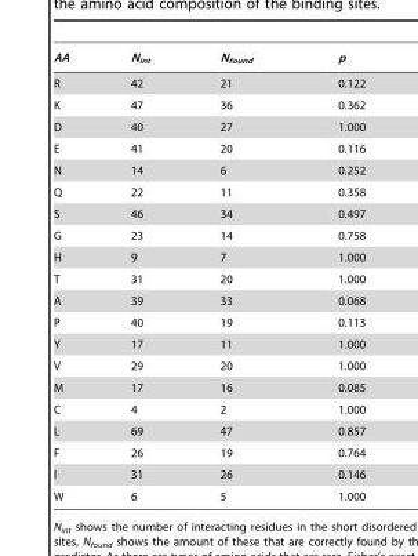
<table><thead><tr><td>AA</td><td>N<sub>int</sub></td><td>N<sub>found</sub></td><td>p</td></tr></thead><tbody><tr><td>R</td><td>42</td><td>21</td><td>0.122</td></tr><tr><td>K</td><td>47</td><td>36</td><td>0.362</td></tr><tr><td>D</td><td>40</td><td>27</td><td>1.000</td></tr><tr><td>E</td><td>41</td><td>20</td><td>0.116</td></tr><tr><td>N</td><td>14</td><td>6</td><td>0.252</td></tr><tr><td>Q</td><td>22</td><td>11</td><td>0.358</td></tr><tr><td>S</td><td>46</td><td>34</td><td>0.497</td></tr><tr><td>G</td><td>23</td><td>14</td><td>0.758</td></tr><tr><td>H</td><td>9</td><td>7</td><td>1.000</td></tr><tr><td>T</td><td>31</td><td>20</td><td>1.000</td></tr><tr><td>A</td><td>39</td><td>33</td><td>0.068</td></tr><tr><td>P</td><td>40</td><td>19</td><td>0.113</td></tr><tr><td>Y</td><td>17</td><td>11</td><td>1.000</td></tr><tr><td>V</td><td>29</td><td>20</td><td>1.000</td></tr><tr><td>M</td><td>17</td><td>16</td><td>0.085</td></tr><tr><td>C</td><td>4</td><td>2</td><td>1.000</td></tr><tr><td>L</td><td>69</td><td>47</td><td>0.857</td></tr><tr><td>F</td><td>26</td><td>19</td><td>0.764</td></tr><tr><td>I</td><td>31</td><td>26</td><td>0.146</td></tr><tr><td>W</td><td>6</td><td>5</td><td>1.000</td></tr></tbody></table>